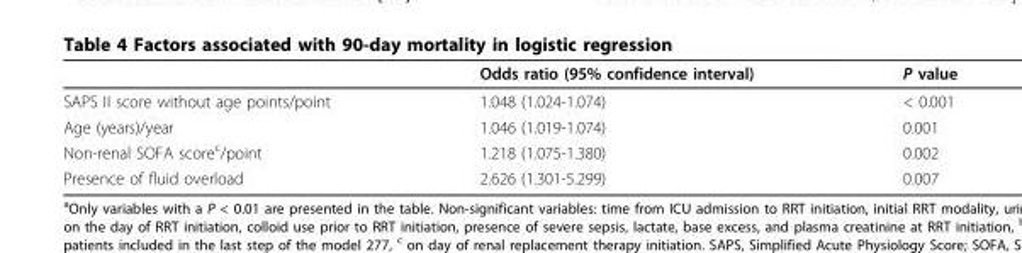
<table><thead><tr><td></td><td>Odds ratio (95% confidence interval)</td><td>P value</td></tr></thead><tbody><tr><td>SAPS II score without age points/point</td><td>1.048 (1.024-1.074)</td><td>&lt; 0.001</td></tr><tr><td>Age (years)/year</td><td>1.046 (1.019-1.074)</td><td>0.001</td></tr><tr><td>Non-renal SOFA score<sup>c</sup>/point</td><td>1.218 (1.075-1.380)</td><td>0.002</td></tr><tr><td>Presence of fluid overload</td><td>2.626 (1.301-5.299)</td><td>0.007</td></tr></tbody></table>